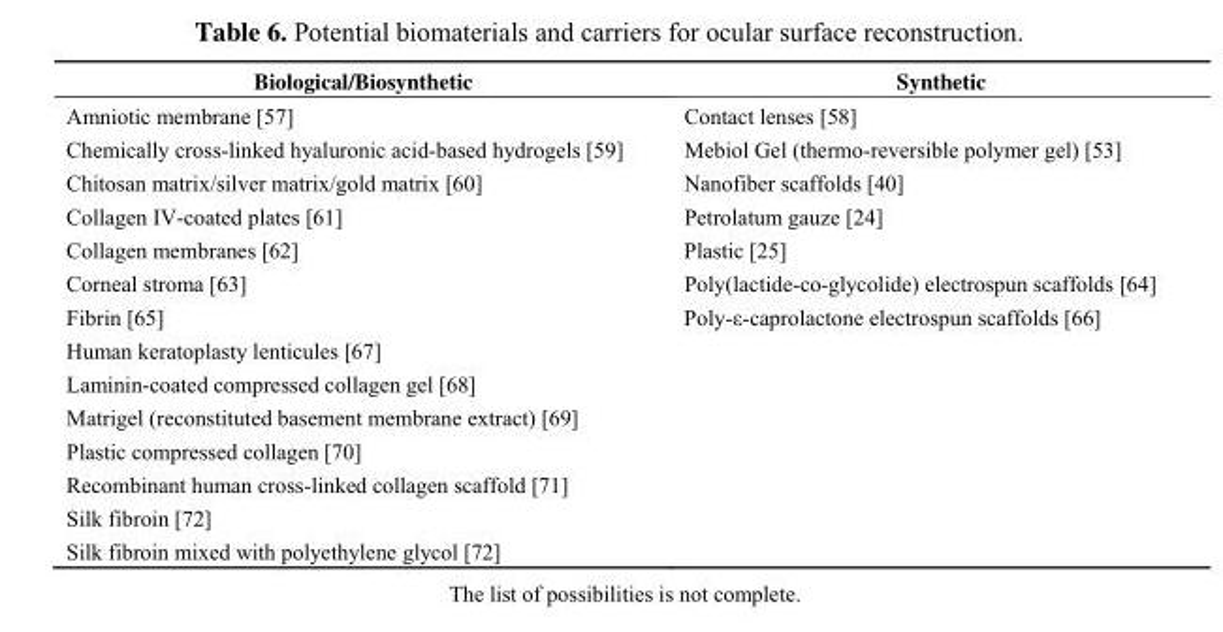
<table><thead><tr><td>Biological/Biosynthetic</td><td>Synthetic</td></tr></thead><tbody><tr><td>Amniotic membrane [57]</td><td>Contact lenses [58]</td></tr><tr><td>Chemically cross-linked hyaluronic acid-based hydrogels [59]</td><td>Mebiol Gel (thermo-reversible polymer gel) [53]</td></tr><tr><td>Chitosan matrix/silver matrix/gold matrix [60]</td><td>Nanofiber scaffolds [40]</td></tr><tr><td>Collagen IV-coated plates [61]</td><td>Petrolatum gauze [24]</td></tr><tr><td>Collagen membranes [62]</td><td>Plastic [25]</td></tr><tr><td>Corneal stroma [63]</td><td>Poly(lactide-co-glycolide) electrospun scaffolds [64]</td></tr><tr><td>Fibrin [65]</td><td>Poly-ε-caprolactone electrospun scaffolds [66]</td></tr><tr><td colspan="2">Human keratoplasty lenticules [67]</td></tr><tr><td colspan="2">Laminin-coated compressed collagen gel [68]</td></tr><tr><td colspan="2">Matrigel (reconstituted basement membrane extract) [69]</td></tr><tr><td colspan="2">Plastic compressed collagen [70]</td></tr><tr><td colspan="2">Recombinant human cross-linked collagen scaffold [71]</td></tr><tr><td colspan="2">Silk fibroin [72]</td></tr><tr><td>Silk fibroin mixed with polyethylene glycol [72]</td><td></td></tr></tbody></table>